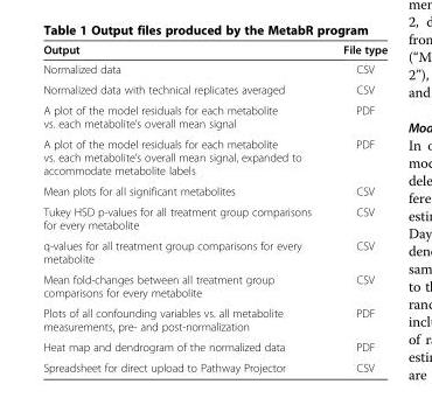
<table><thead><tr><td>Output</td><td>File type</td></tr></thead><tbody><tr><td>Normalized data</td><td>CSV</td></tr><tr><td>Normalized data with technical replicates averaged</td><td>CSV</td></tr><tr><td>A plot of the model residuals for each metabolite vs. each metabolite’s overall mean signal</td><td>PDF</td></tr><tr><td>A plot of the model residuals for each metabolite vs. each metabolite’s overall mean signal, expanded to accommodate metabolite labels</td><td>PDF</td></tr><tr><td>Mean plots for all significant metabolites</td><td>CSV</td></tr><tr><td>Tukey HSD p-values for all treatment group comparisons for every metabolite</td><td>CSV</td></tr><tr><td>q-values for all treatment group comparisons for every metabolite</td><td>CSV</td></tr><tr><td>Mean fold-changes between all treatment group comparisons for every metabolite</td><td>CSV</td></tr><tr><td>Plots of all confounding variables vs. all metabolite measurements, pre- and post-normalization</td><td>PDF</td></tr><tr><td>Heat map and dendrogram of the normalized data</td><td>PDF</td></tr><tr><td>Spreadsheet for direct upload to Pathway Projector</td><td>CSV</td></tr></tbody></table>